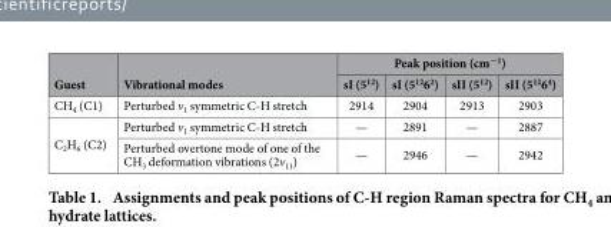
<table><thead><tr><td rowspan="2">Guest</td><td rowspan="2">Vibrational modes</td><td colspan="4">Peak position (cm<sup>−1</sup>)</td></tr><tr><td>sI (5<sup>12</sup>)</td><td>sI (5<sup>12</sup>6<sup>2</sup>)</td><td>sII (5<sup>12</sup>)</td><td>sII (5<sup>12</sup>6<sup>4</sup>)</td></tr></thead><tbody><tr><td>CH<sub>4</sub> (C1)</td><td>Perturbed v<sub>1</sub> symmetric C-H stretch</td><td>2914</td><td>2904</td><td>2913</td><td>2903</td></tr><tr><td rowspan="2">C<sub>2</sub>H<sub>6</sub> (C2)</td><td>Perturbed v<sub>1</sub> symmetric C-H stretch</td><td>—</td><td>2891</td><td>—</td><td>2887</td></tr><tr><td>Perturbed overtone mode of one of the CH<sub>3</sub> deformation vibrations (2v<sub>11</sub>)</td><td>—</td><td>2946</td><td>—</td><td>2942</td></tr></tbody></table>